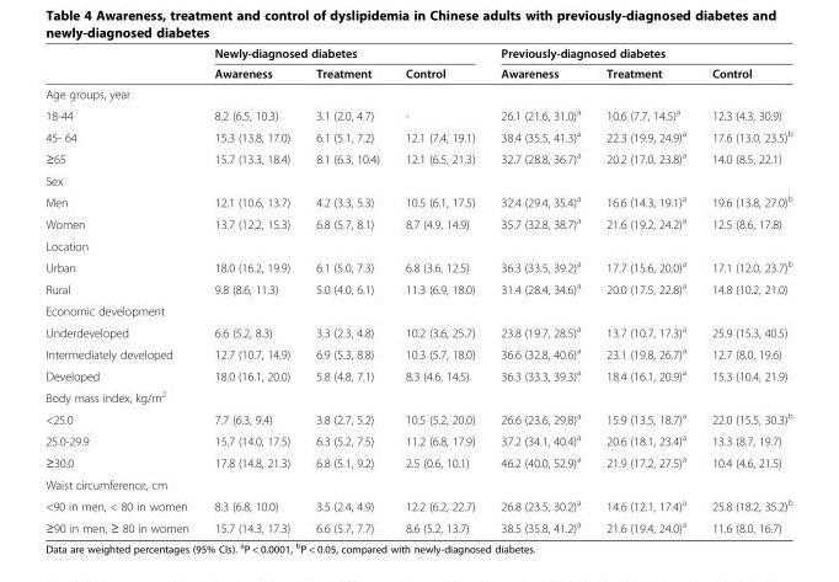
<table><thead><tr><td rowspan="2"></td><td colspan="3">Newly-diagnosed diabetes</td><td colspan="3">Previously-diagnosed diabetes</td></tr><tr><td>Awareness</td><td>Treatment</td><td>Control</td><td>Awareness</td><td>Treatment</td><td>Control</td></tr></thead><tbody><tr><td colspan="7">Age groups, year</td></tr><tr><td>18-44</td><td>8.2 (6.5, 10.3)</td><td>3.1 (2.0, 4.7)</td><td>-</td><td>26.1 (21.6, 31.0)<sup>a</sup></td><td>10.6 (7.7, 14.5)<sup>a</sup></td><td>12.3 (4.3, 30.9)</td></tr><tr><td>45- 64</td><td>15.3 (13.8, 17.0)</td><td>6.1 (5.1, 7.2)</td><td>12.1 (7.4, 19.1)</td><td>38.4 (35.5, 41.3)<sup>a</sup></td><td>22.3 (19.9, 24.9)<sup>a</sup></td><td>17.6 (13.0, 23.5)<sup>b</sup></td></tr><tr><td>≥65</td><td>15.7 (13.3, 18.4)</td><td>8.1 (6.3, 10.4)</td><td>12.1 (6.5, 21.3)</td><td>32.7 (28.8, 36.7)<sup>a</sup></td><td>20.2 (17.0, 23.8)<sup>a</sup></td><td>14.0 (8.5, 22.1)</td></tr><tr><td colspan="7">Sex</td></tr><tr><td>Men</td><td>12.1 (10.6, 13.7)</td><td>4.2 (3.3, 5.3)</td><td>10.5 (6.1, 17.5)</td><td>32.4 (29.4, 35.4)<sup>a</sup></td><td>16.6 (14.3, 19.1)<sup>a</sup></td><td>19.6 (13.8, 27.0)<sup>b</sup></td></tr><tr><td>Women</td><td>13.7 (12.2, 15.3)</td><td>6.8 (5.7, 8.1)</td><td>8.7 (4.9, 14.9)</td><td>35.7 (32.8, 38.7)<sup>a</sup></td><td>21.6 (19.2, 24.2)<sup>a</sup></td><td>12.5 (8.6, 17.8)</td></tr><tr><td colspan="7">Location</td></tr><tr><td>Urban</td><td>18.0 (16.2, 19.9)</td><td>6.1 (5.0, 7.3)</td><td>6.8 (3.6, 12.5)</td><td>36.3 (33.5, 39.2)<sup>a</sup></td><td>17.7 (15.6, 20.0)<sup>a</sup></td><td>17.1 (12.0, 23.7)<sup>b</sup></td></tr><tr><td>Rural</td><td>9.8 (8.6, 11.3)</td><td>5.0 (4.0, 6.1)</td><td>11.3 (6.9, 18.0)</td><td>31.4 (28.4, 34.6)<sup>a</sup></td><td>20.0 (17.5, 22.8)<sup>a</sup></td><td>14.8 (10.2, 21.0)</td></tr><tr><td colspan="7">Economic development</td></tr><tr><td>Underdeveloped</td><td>6.6 (5.2, 8.3)</td><td>3.3 (2.3, 4.8)</td><td>10.2 (3.6, 25.7)</td><td>23.8 (19.7, 28.5)<sup>a</sup></td><td>13.7 (10.7, 17.3)<sup>a</sup></td><td>25.9 (15.3, 40.5)</td></tr><tr><td>Intermediately developed</td><td>12.7 (10.7, 14.9)</td><td>6.9 (5.3, 8.8)</td><td>10.3 (5.7, 18.0)</td><td>36.6 (32.8, 40.6)<sup>a</sup></td><td>23.1 (19.8, 26.7)<sup>a</sup></td><td>12.7 (8.0, 19.6)</td></tr><tr><td>Developed</td><td>18.0 (16.1, 20.0)</td><td>5.8 (4.8, 7.1)</td><td>8.3 (4.6, 14.5)</td><td>36.3 (33.3, 39.3)<sup>a</sup></td><td>18.4 (16.1, 20.9)<sup>a</sup></td><td>15.3 (10.4, 21.9)</td></tr><tr><td colspan="7">Body mass index, kg/m<sup>2</sup></td></tr><tr><td>&lt;25.0</td><td>7.7 (6.3, 9.4)</td><td>3.8 (2.7, 5.2)</td><td>10.5 (5.2, 20.0)</td><td>26.6 (23.6, 29.8)<sup>a</sup></td><td>15.9 (13.5, 18.7)<sup>a</sup></td><td>22.0 (15.5, 30.3)<sup>b</sup></td></tr><tr><td>25.0-29.9</td><td>15.7 (14.0, 17.5)</td><td>6.3 (5.2, 7.5)</td><td>11.2 (6.8, 17.9)</td><td>37.2 (34.1, 40.4)<sup>a</sup></td><td>20.6 (18.1, 23.4)<sup>a</sup></td><td>13.3 (8.7, 19.7)</td></tr><tr><td>≥30.0</td><td>17.8 (14.8, 21.3)</td><td>6.8 (5.1, 9.2)</td><td>2.5 (0.6, 10.1)</td><td>46.2 (40.0, 52.9)<sup>a</sup></td><td>21.9 (17.2, 27.5)<sup>a</sup></td><td>10.4 (4.6, 21.5)</td></tr><tr><td colspan="7">Waist circumference, cm</td></tr><tr><td>&lt;90 in men, &lt; 80 in women</td><td>8.3 (6.8, 10.0)</td><td>3.5 (2.4, 4.9)</td><td>12.2 (6.2, 22.7)</td><td>26.8 (23.5, 30.2)<sup>a</sup></td><td>14.6 (12.1, 17.4)<sup>a</sup></td><td>25.8 (18.2, 35.2)<sup>b</sup></td></tr><tr><td>≥90 in men, ≥ 80 in women</td><td>15.7 (14.3, 17.3)</td><td>6.6 (5.7, 7.7)</td><td>8.6 (5.2, 13.7)</td><td>38.5 (35.8, 41.2)<sup>a</sup></td><td>21.6 (19.4, 24.0)<sup>a</sup></td><td>11.6 (8.0, 16.7)</td></tr></tbody></table>